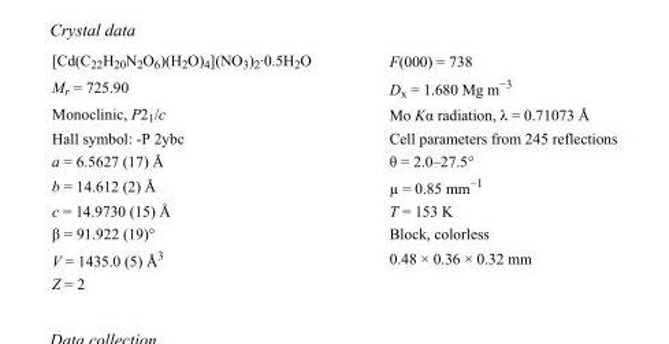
<table><tbody><tr><td>[Cd(C<sub>22</sub>H<sub>20</sub>N<sub>2</sub>O<sub>6</sub>)(H<sub>2</sub>O)<sub>4</sub>](NO<sub>3</sub>)<sub>2</sub>·0.5H<sub>2</sub>O</td><td>F(000) = 738</td></tr><tr><td>M<sub>r</sub> = 725.90</td><td>D<sub>x</sub> = 1.680 Mg m<sup>−3</sup></td></tr><tr><td>Monoclinic, P2<sub>1</sub>/c</td><td>Mo Kα radiation, λ = 0.71073 Å</td></tr><tr><td>Hall symbol: -P 2ybc</td><td>Cell parameters from 245 reflections</td></tr><tr><td>a = 6.5627 (17) Å</td><td>θ = 2.0–27.5°</td></tr><tr><td>b = 14.612 (2) Å</td><td>µ = 0.85 mm<sup>−1</sup></td></tr><tr><td>c = 14.9730 (15) Å</td><td>T = 153 K</td></tr><tr><td>β = 91.922 (19)°</td><td>Block, colorless</td></tr><tr><td>V = 1435.0 (5) Å<sup>3</sup></td><td>0.48 × 0.36 × 0.32 mm</td></tr><tr><td>Z = 2</td><td></td></tr></tbody></table>